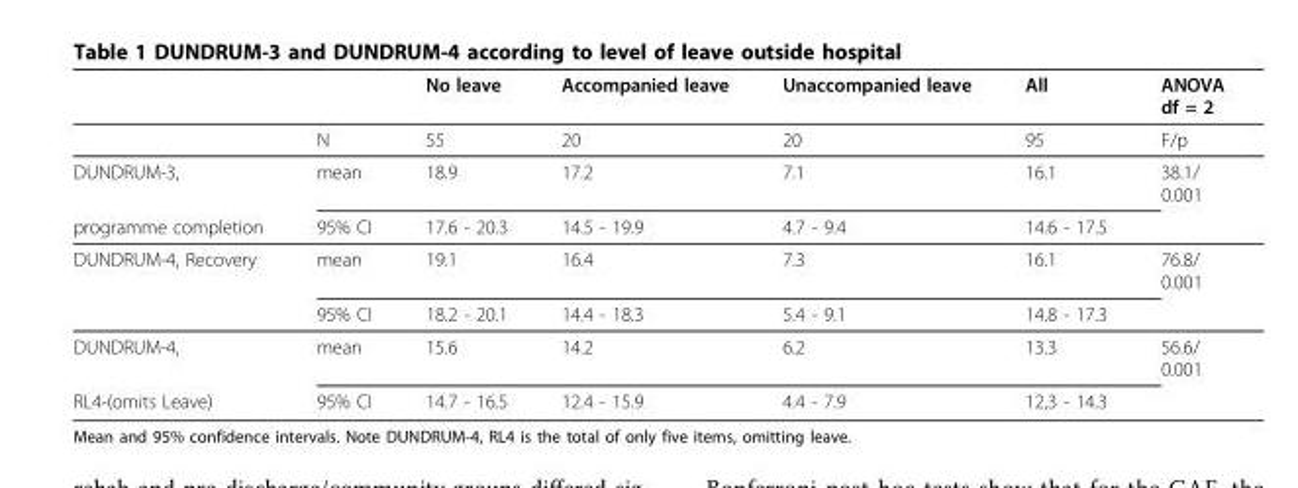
<table><thead><tr><td></td><td></td><td>No leave</td><td>Accompanied leave</td><td>Unaccompanied leave</td><td>All</td><td>ANOVA df = 2</td></tr></thead><tbody><tr><td></td><td>N</td><td>55</td><td>20</td><td>20</td><td>95</td><td>F/p</td></tr><tr><td>DUNDRUM-3,</td><td>mean</td><td>18.9</td><td>17.2</td><td>7.1</td><td>16.1</td><td>38.1/ 0.001</td></tr><tr><td>programme completion</td><td>95% CI</td><td>17.6 - 20.3</td><td>14.5 - 19.9</td><td>4.7 - 9.4</td><td>14.6 - 17.5</td><td></td></tr><tr><td rowspan="2">DUNDRUM-4, Recovery</td><td>mean</td><td>19.1</td><td>16.4</td><td>7.3</td><td>16.1</td><td>76.8/ 0.001</td></tr><tr><td>95% CI</td><td>18.2 - 20.1</td><td>14.4 - 18.3</td><td>5.4 - 9.1</td><td>14.8 - 17.3</td><td></td></tr><tr><td>DUNDRUM-4,</td><td>mean</td><td>15.6</td><td>14.2</td><td>6.2</td><td>13.3</td><td>56.6/ 0.001</td></tr><tr><td>RL4-(omits Leave)</td><td>95% CI</td><td>14.7 - 16.5</td><td>12.4 - 15.9</td><td>4.4 - 7.9</td><td>12,3 - 14.3</td><td></td></tr></tbody></table>